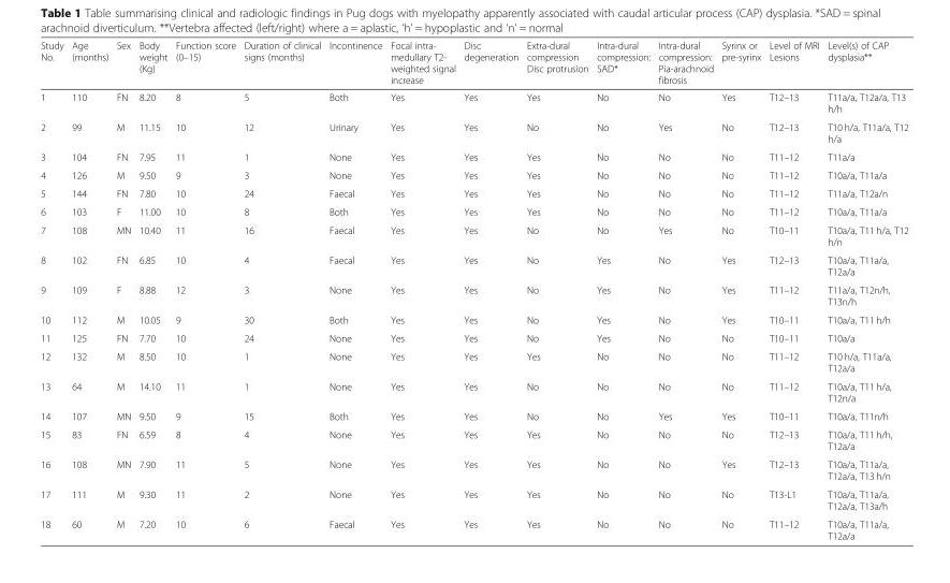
<table><thead><tr><td>Study No.</td><td>Age (months)</td><td>Sex</td><td>Body weight (Kg)</td><td>Function score (0–15)</td><td>Duration of clinical signs (months)</td><td>Incontinence</td><td>Focal intra- medullary T2- weighted signal increase</td><td>Disc degeneration</td><td>Extra-dural compression Disc protrusion</td><td>Intra-dural compression: SAD*</td><td>Intra-dural compression: Pia-arachnoid fibrosis</td><td>Syrinx or pre-syrinx</td><td>Level of MRI Lesions</td><td>Level(s) of CAP dysplasia**</td></tr></thead><tbody><tr><td>1</td><td>110</td><td>FN</td><td>8.20</td><td>8</td><td>5</td><td>Both</td><td>Yes</td><td>Yes</td><td>Yes</td><td>No</td><td>No</td><td>Yes</td><td>T12–13</td><td>T11a/a, T12a/a, T13 h/h</td></tr><tr><td>2</td><td>99</td><td>M</td><td>11.15</td><td>10</td><td>12</td><td>Urinary</td><td>Yes</td><td>Yes</td><td>No</td><td>No</td><td>Yes</td><td>No</td><td>T12–13</td><td>T10 h/a, T11a/a, T12 h/a</td></tr><tr><td>3</td><td>104</td><td>FN</td><td>7.95</td><td>11</td><td>1</td><td>None</td><td>Yes</td><td>Yes</td><td>Yes</td><td>No</td><td>No</td><td>No</td><td>T11–12</td><td>T11a/a</td></tr><tr><td>4</td><td>126</td><td>M</td><td>9.50</td><td>9</td><td>3</td><td>None</td><td>Yes</td><td>Yes</td><td>Yes</td><td>No</td><td>No</td><td>No</td><td>T11–12</td><td>T10a/a, T11a/a</td></tr><tr><td>5</td><td>144</td><td>FN</td><td>7.80</td><td>10</td><td>24</td><td>Faecal</td><td>Yes</td><td>Yes</td><td>Yes</td><td>No</td><td>No</td><td>No</td><td>T11–12</td><td>T11a/a, T12a/n</td></tr><tr><td>6</td><td>103</td><td>F</td><td>11.00</td><td>10</td><td>8</td><td>Both</td><td>Yes</td><td>Yes</td><td>Yes</td><td>No</td><td>No</td><td>No</td><td>T11–12</td><td>T10a/a, T11a/a</td></tr><tr><td>7</td><td>108</td><td>MN</td><td>10.40</td><td>11</td><td>16</td><td>Faecal</td><td>Yes</td><td>Yes</td><td>No</td><td>No</td><td>Yes</td><td>No</td><td>T10–11</td><td>T10a/a, T11 h/a, T12 h/n</td></tr><tr><td>8</td><td>102</td><td>FN</td><td>6.85</td><td>10</td><td>4</td><td>Faecal</td><td>Yes</td><td>Yes</td><td>No</td><td>Yes</td><td>No</td><td>Yes</td><td>T12–13</td><td>T10a/a, T11a/a, T12a/a</td></tr><tr><td>9</td><td>109</td><td>F</td><td>8.88</td><td>12</td><td>3</td><td>None</td><td>Yes</td><td>Yes</td><td>No</td><td>Yes</td><td>No</td><td>Yes</td><td>T11–12</td><td>T11a/a, T12n/h, T13n/h</td></tr><tr><td>10</td><td>112</td><td>M</td><td>10.05</td><td>9</td><td>30</td><td>Both</td><td>Yes</td><td>Yes</td><td>No</td><td>Yes</td><td>No</td><td>Yes</td><td>T10–11</td><td>T10a/a, T11 h/h</td></tr><tr><td>11</td><td>125</td><td>FN</td><td>7.70</td><td>10</td><td>24</td><td>None</td><td>Yes</td><td>Yes</td><td>No</td><td>Yes</td><td>No</td><td>No</td><td>T10–11</td><td>T10a/a</td></tr><tr><td>12</td><td>132</td><td>M</td><td>8.50</td><td>10</td><td>1</td><td>None</td><td>Yes</td><td>Yes</td><td>Yes</td><td>No</td><td>No</td><td>No</td><td>T11–12</td><td>T10 h/a, T11a/a, T12a/a</td></tr><tr><td>13</td><td>64</td><td>M</td><td>14.10</td><td>11</td><td>1</td><td>None</td><td>Yes</td><td>Yes</td><td>No</td><td>No</td><td>No</td><td>No</td><td>T11–12</td><td>T10a/a, T11 h/a, T12n/a</td></tr><tr><td>14</td><td>107</td><td>MN</td><td>9.50</td><td>9</td><td>15</td><td>Both</td><td>Yes</td><td>Yes</td><td>No</td><td>No</td><td>Yes</td><td>Yes</td><td>T10–11</td><td>T10a/a, T11n/h</td></tr><tr><td>15</td><td>83</td><td>FN</td><td>6.59</td><td>8</td><td>4</td><td>None</td><td>Yes</td><td>Yes</td><td>Yes</td><td>No</td><td>No</td><td>No</td><td>T12–13</td><td>T10a/a, T11 h/h, T12a/a</td></tr><tr><td>16</td><td>108</td><td>MN</td><td>7.90</td><td>11</td><td>5</td><td>None</td><td>Yes</td><td>Yes</td><td>Yes</td><td>No</td><td>No</td><td>Yes</td><td>T12–13</td><td>T10a/a, T11a/a, T12a/a, T13 h/n</td></tr><tr><td>17</td><td>111</td><td>M</td><td>9.30</td><td>11</td><td>2</td><td>None</td><td>Yes</td><td>Yes</td><td>Yes</td><td>No</td><td>No</td><td>No</td><td>T13-L1</td><td>T10a/a, T11a/a, T12a/a, T13a/h</td></tr><tr><td>18</td><td>60</td><td>M</td><td>7.20</td><td>10</td><td>6</td><td>Faecal</td><td>Yes</td><td>Yes</td><td>Yes</td><td>No</td><td>No</td><td>No</td><td>T11–12</td><td>T10a/a, T11a/a, T12a/a</td></tr></tbody></table>